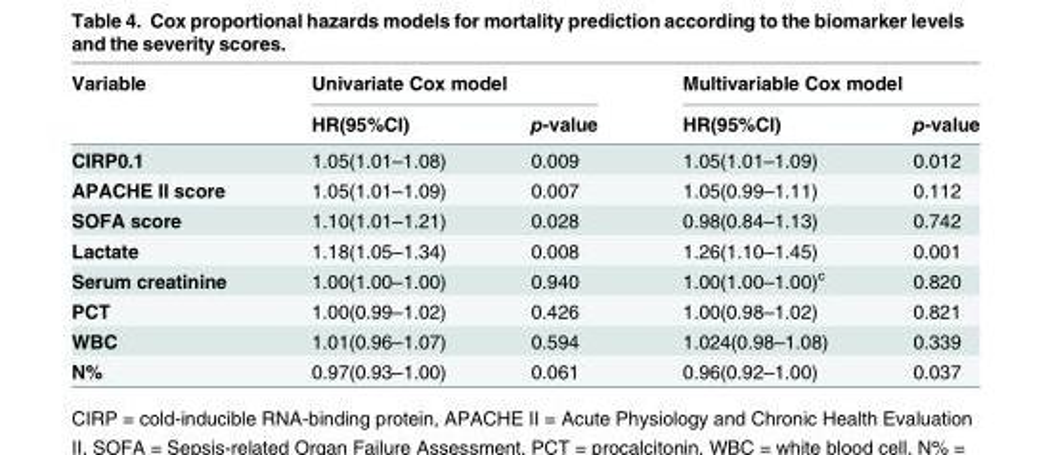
<table><thead><tr><td rowspan="2">Variable</td><td colspan="2">Univariate Cox model</td><td colspan="2">Multivariable Cox model</td></tr><tr><td>HR(95%CI)</td><td>p-value</td><td>HR(95%CI)</td><td>p-value</td></tr></thead><tbody><tr><td>CIRP0.1</td><td>1.05(1.01–1.08)</td><td>0.009</td><td>1.05(1.01–1.09)</td><td>0.012</td></tr><tr><td>APACHE II score</td><td>1.05(1.01–1.09)</td><td>0.007</td><td>1.05(0.99–1.11)</td><td>0.112</td></tr><tr><td>SOFA score</td><td>1.10(1.01–1.21)</td><td>0.028</td><td>0.98(0.84–1.13)</td><td>0.742</td></tr><tr><td>Lactate</td><td>1.18(1.05–1.34)</td><td>0.008</td><td>1.26(1.10–1.45)</td><td>0.001</td></tr><tr><td>Serum creatinine</td><td>1.00(1.00–1.00)</td><td>0.940</td><td>1.00(1.00–1.00)<sup>c</sup></td><td>0.820</td></tr><tr><td>PCT</td><td>1.00(0.99–1.02)</td><td>0.426</td><td>1.00(0.98–1.02)</td><td>0.821</td></tr><tr><td>WBC</td><td>1.01(0.96–1.07)</td><td>0.594</td><td>1.024(0.98–1.08)</td><td>0.339</td></tr><tr><td>N%</td><td>0.97(0.93–1.00)</td><td>0.061</td><td>0.96(0.92–1.00)</td><td>0.037</td></tr></tbody></table>